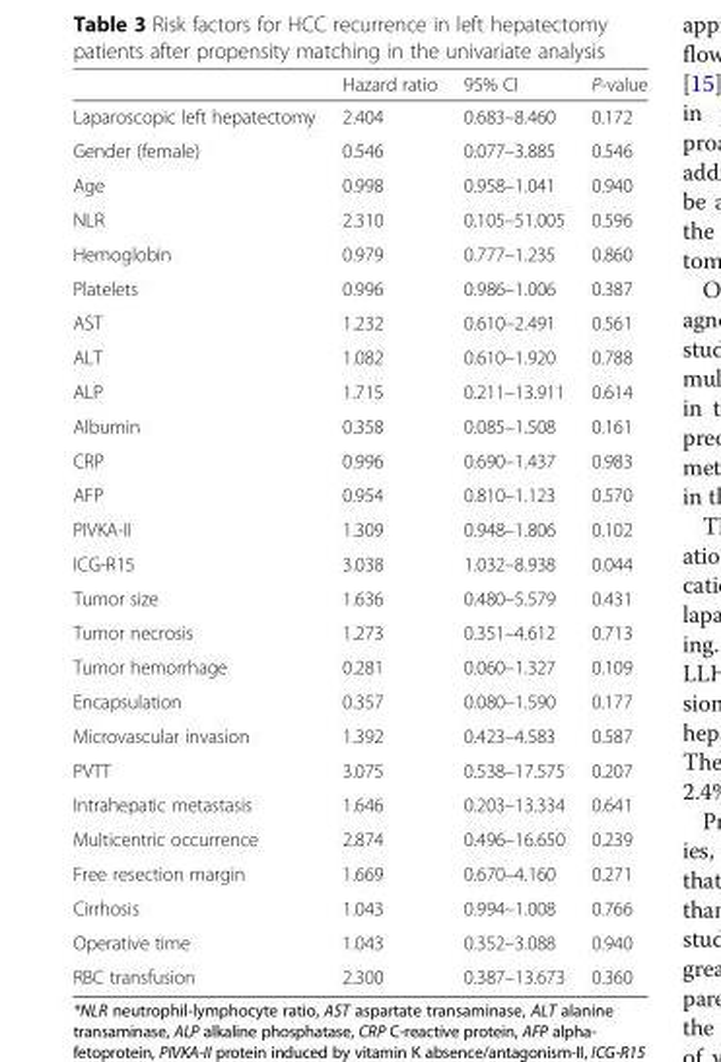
<table><thead><tr><td></td><td>Hazard ratio</td><td>95% CI</td><td>P-value</td></tr></thead><tbody><tr><td>Laparoscopic left hepatectomy</td><td>2.404</td><td>0.683–8.460</td><td>0.172</td></tr><tr><td>Gender (female)</td><td>0.546</td><td>0.077–3.885</td><td>0.546</td></tr><tr><td>Age</td><td>0.998</td><td>0.958–1.041</td><td>0.940</td></tr><tr><td>NLR</td><td>2.310</td><td>0.105–51.005</td><td>0.596</td></tr><tr><td>Hemoglobin</td><td>0.979</td><td>0.777–1.235</td><td>0.860</td></tr><tr><td>Platelets</td><td>0.996</td><td>0.986–1.006</td><td>0.387</td></tr><tr><td>AST</td><td>1.232</td><td>0.610–2.491</td><td>0.561</td></tr><tr><td>ALT</td><td>1.082</td><td>0.610–1.920</td><td>0.788</td></tr><tr><td>ALP</td><td>1.715</td><td>0.211–13.911</td><td>0.614</td></tr><tr><td>Albumin</td><td>0.358</td><td>0.085–1.508</td><td>0.161</td></tr><tr><td>CRP</td><td>0.996</td><td>0.690–1.437</td><td>0.983</td></tr><tr><td>AFP</td><td>0.954</td><td>0.810–1.123</td><td>0.570</td></tr><tr><td>PIVKA-II</td><td>1.309</td><td>0.948–1.806</td><td>0.102</td></tr><tr><td>ICG-R15</td><td>3.038</td><td>1.032–8.938</td><td>0.044</td></tr><tr><td>Tumor size</td><td>1.636</td><td>0.480–5.579</td><td>0.431</td></tr><tr><td>Tumor necrosis</td><td>1.273</td><td>0.351–4.612</td><td>0.713</td></tr><tr><td>Tumor hemorrhage</td><td>0.281</td><td>0.060–1.327</td><td>0.109</td></tr><tr><td>Encapsulation</td><td>0.357</td><td>0.080–1.590</td><td>0.177</td></tr><tr><td>Microvascular invasion</td><td>1.392</td><td>0.423–4.583</td><td>0.587</td></tr><tr><td>PVTT</td><td>3.075</td><td>0.538–17.575</td><td>0.207</td></tr><tr><td>Intrahepatic metastasis</td><td>1.646</td><td>0.203–13.334</td><td>0.641</td></tr><tr><td>Multicentric occurrence</td><td>2.874</td><td>0.496–16.650</td><td>0.239</td></tr><tr><td>Free resection margin</td><td>1.669</td><td>0.670–4.160</td><td>0.271</td></tr><tr><td>Cirrhosis</td><td>1.043</td><td>0.994–1.008</td><td>0.766</td></tr><tr><td>Operative time</td><td>1.043</td><td>0.352–3.088</td><td>0.940</td></tr><tr><td>RBC transfusion</td><td>2.300</td><td>0.387–13.673</td><td>0.360</td></tr></tbody></table>